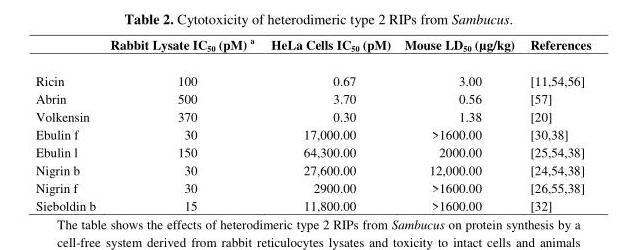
<table><thead><tr><td></td><td>Rabbit Lysate IC<sub>50</sub> (pM) <sup>a</sup></td><td>HeLa Cells IC<sub>50</sub> (pM)</td><td>Mouse LD<sub>50</sub> (µg/kg)</td><td>References</td></tr></thead><tbody><tr><td>Ricin</td><td>100</td><td>0.67</td><td>3.00</td><td>[11,54,56]</td></tr><tr><td>Abrin</td><td>500</td><td>3.70</td><td>0.56</td><td>[57]</td></tr><tr><td>Volkensin</td><td>370</td><td>0.30</td><td>1.38</td><td>[20]</td></tr><tr><td>Ebulin f</td><td>30</td><td>17,000.00</td><td>&gt;1600.00</td><td>[30,38]</td></tr><tr><td>Ebulin l</td><td>150</td><td>64,300.00</td><td>2000.00</td><td>[25,54,38]</td></tr><tr><td>Nigrin b</td><td>30</td><td>27,600.00</td><td>12,000.00</td><td>[24,54,38]</td></tr><tr><td>Nigrin f</td><td>30</td><td>2900.00</td><td>&gt;1600.00</td><td>[26,55,38]</td></tr><tr><td>Sieboldin b</td><td>15</td><td>11,800.00</td><td>&gt;1600.00</td><td>[32]</td></tr></tbody></table>